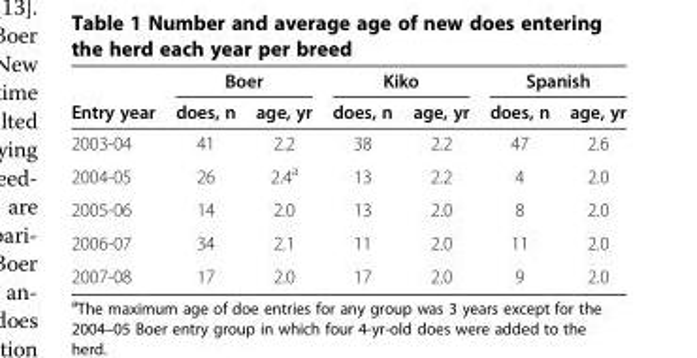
<table><thead><tr><td rowspan="2">Entry year</td><td colspan="2">Boer</td><td colspan="2">Kiko</td><td colspan="2">Spanish</td></tr><tr><td>does, n</td><td>age, yr</td><td>does, n</td><td>age, yr</td><td>does, n</td><td>age, yr</td></tr></thead><tbody><tr><td>2003-04</td><td>41</td><td>2.2</td><td>38</td><td>2.2</td><td>47</td><td>2.6</td></tr><tr><td>2004-05</td><td>26</td><td>2.4<sup>a</sup></td><td>13</td><td>2.2</td><td>4</td><td>2.0</td></tr><tr><td>2005-06</td><td>14</td><td>2.0</td><td>13</td><td>2.0</td><td>8</td><td>2.0</td></tr><tr><td>2006-07</td><td>34</td><td>2.1</td><td>11</td><td>2.0</td><td>11</td><td>2.0</td></tr><tr><td>2007-08</td><td>17</td><td>2.0</td><td>17</td><td>2.0</td><td>9</td><td>2.0</td></tr></tbody></table>